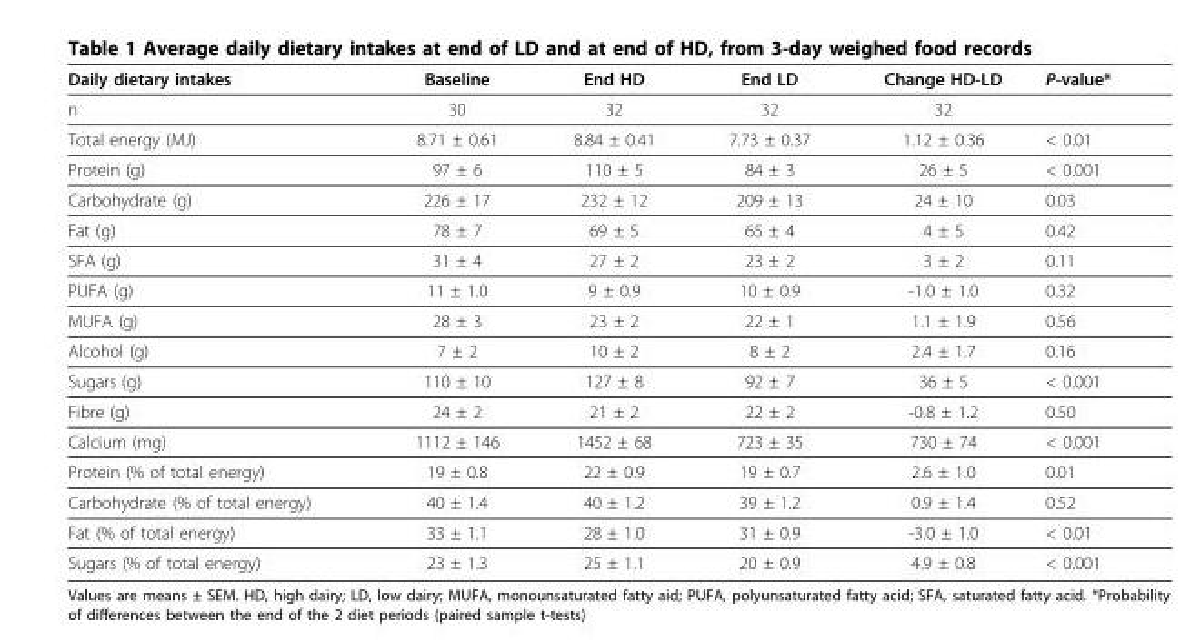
<table><thead><tr><td>Daily dietary intakes</td><td>Baseline</td><td>End HD</td><td>End LD</td><td>Change HD-LD</td><td>P-value*</td></tr></thead><tbody><tr><td>n</td><td>30</td><td>32</td><td>32</td><td>32</td><td></td></tr><tr><td>Total energy (MJ)</td><td>8.71 ± 0.61</td><td>8.84 ± 0.41</td><td>7.73 ± 0.37</td><td>1.12 ± 0.36</td><td>&lt; 0.01</td></tr><tr><td>Protein (g)</td><td>97 ± 6</td><td>110 ± 5</td><td>84 ± 3</td><td>26 ± 5</td><td>&lt; 0.001</td></tr><tr><td>Carbohydrate (g)</td><td>226 ± 17</td><td>232 ± 12</td><td>209 ± 13</td><td>24 ± 10</td><td>0.03</td></tr><tr><td>Fat (g)</td><td>78 ± 7</td><td>69 ± 5</td><td>65 ± 4</td><td>4 ± 5</td><td>0.42</td></tr><tr><td>SFA (g)</td><td>31 ± 4</td><td>27 ± 2</td><td>23 ± 2</td><td>3 ± 2</td><td>0.11</td></tr><tr><td>PUFA (g)</td><td>11 ± 1.0</td><td>9 ± 0.9</td><td>10 ± 0.9</td><td>-1.0 ± 1.0</td><td>0.32</td></tr><tr><td>MUFA (g)</td><td>28 ± 3</td><td>23 ± 2</td><td>22 ± 1</td><td>1.1 ± 1.9</td><td>0.56</td></tr><tr><td>Alcohol (g)</td><td>7 ± 2</td><td>10 ± 2</td><td>8 ± 2</td><td>2.4 ± 1.7</td><td>0.16</td></tr><tr><td>Sugars (g)</td><td>110 ± 10</td><td>127 ± 8</td><td>92 ± 7</td><td>36 ± 5</td><td>&lt; 0.001</td></tr><tr><td>Fibre (g)</td><td>24 ± 2</td><td>21 ± 2</td><td>22 ± 2</td><td>-0.8 ± 1.2</td><td>0.50</td></tr><tr><td>Calcium (mg)</td><td>1112 ± 146</td><td>1452 ± 68</td><td>723 ± 35</td><td>730 ± 74</td><td>&lt; 0.001</td></tr><tr><td>Protein (% of total energy)</td><td>19 ± 0.8</td><td>22 ± 0.9</td><td>19 ± 0.7</td><td>2.6 ± 1.0</td><td>0.01</td></tr><tr><td>Carbohydrate (% of total energy)</td><td>40 ± 1.4</td><td>40 ± 1.2</td><td>39 ± 1.2</td><td>0.9 ± 1.4</td><td>0.52</td></tr><tr><td>Fat (% of total energy)</td><td>33 ± 1.1</td><td>28 ± 1.0</td><td>31 ± 0.9</td><td>-3.0 ± 1.0</td><td>&lt; 0.01</td></tr><tr><td>Sugars (% of total energy)</td><td>23 ± 1.3</td><td>25 ± 1.1</td><td>20 ± 0.9</td><td>4.9 ± 0.8</td><td>&lt; 0.001</td></tr></tbody></table>